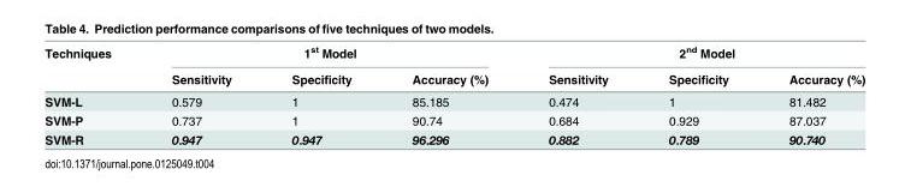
<table><thead><tr><td rowspan="2">Techniques</td><td colspan="3">1<sup>st</sup> Model</td><td colspan="3">2<sup>nd</sup> Model</td></tr><tr><td>Sensitivity</td><td>Specificity</td><td>Accuracy (%)</td><td>Sensitivity</td><td>Specificity</td><td>Accuracy (%)</td></tr></thead><tbody><tr><td>SVM-L</td><td>0.579</td><td>1</td><td>85.185</td><td>0.474</td><td>1</td><td>81.482</td></tr><tr><td>SVM-P</td><td>0.737</td><td>1</td><td>90.74</td><td>0.684</td><td>0.929</td><td>87.037</td></tr><tr><td>SVM-R</td><td>0.947</td><td>0.947</td><td>96.296</td><td>0.882</td><td>0.789</td><td>90.740</td></tr></tbody></table>